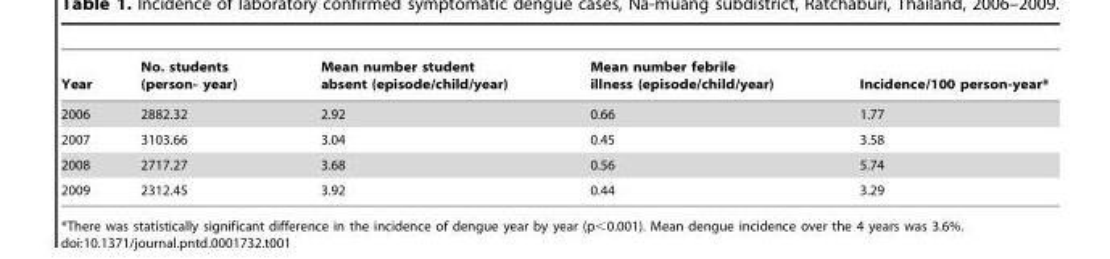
<table><thead><tr><td>Year</td><td>No. students (person- year)</td><td>Mean number student absent (episode/child/year)</td><td>Mean number febrile illness (episode/child/year)</td><td>Incidence/100 person-year*</td></tr></thead><tbody><tr><td>2006</td><td>2882.32</td><td>2.92</td><td>0.66</td><td>1.77</td></tr><tr><td>2007</td><td>3103.66</td><td>3.04</td><td>0.45</td><td>3.58</td></tr><tr><td>2008</td><td>2717.27</td><td>3.68</td><td>0.56</td><td>5.74</td></tr><tr><td>2009</td><td>2312.45</td><td>3.92</td><td>0.44</td><td>3.29</td></tr></tbody></table>